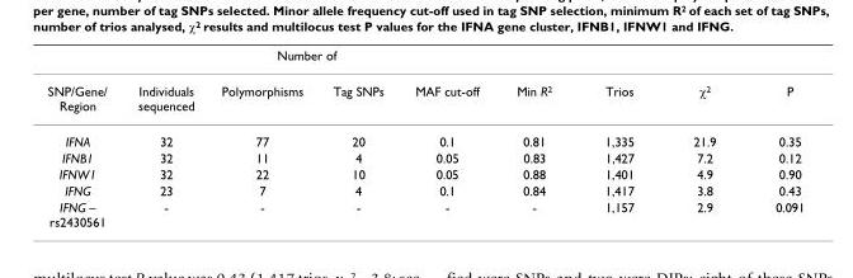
<table><thead><tr><td rowspan="2">SNP/Gene/ Region</td><td rowspan="2">Individuals sequenced</td><td colspan="2">Number of</td><td rowspan="2">MAF cut-off</td><td rowspan="2">Min R<sup>2</sup></td><td rowspan="2">Trios</td><td rowspan="2">χ<sup>2</sup></td><td rowspan="2">P</td></tr><tr><td>Polymorphisms</td><td>Tag SNPs</td></tr></thead><tbody><tr><td>IFNA</td><td>32</td><td>77</td><td>20</td><td>0.1</td><td>0.81</td><td>1,335</td><td>21.9</td><td>0.35</td></tr><tr><td>IFNB1</td><td>32</td><td>11</td><td>4</td><td>0.05</td><td>0.83</td><td>1,427</td><td>7.2</td><td>0.12</td></tr><tr><td>IFNW1</td><td>32</td><td>22</td><td>10</td><td>0.05</td><td>0.88</td><td>1,401</td><td>4.9</td><td>0.90</td></tr><tr><td>IFNG</td><td>23</td><td>7</td><td>4</td><td>0.1</td><td>0.84</td><td>1,417</td><td>3.8</td><td>0.43</td></tr><tr><td>IFNG – rs2430561</td><td>-</td><td>-</td><td>-</td><td>-</td><td>-</td><td>1,157</td><td>2.9</td><td>0.091</td></tr></tbody></table>